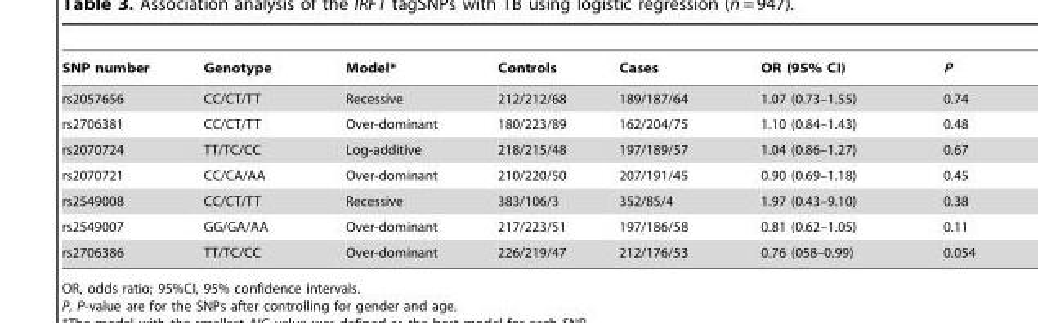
<table><thead><tr><td>SNP number</td><td>Genotype</td><td>Model*</td><td>Controls</td><td>Cases</td><td>OR (95% CI)</td><td>P</td></tr></thead><tbody><tr><td>rs2057656</td><td>CC/CT/TT</td><td>Recessive</td><td>212/212/68</td><td>189/187/64</td><td>1.07 (0.73–1.55)</td><td>0.74</td></tr><tr><td>rs2706381</td><td>CC/CT/TT</td><td>Over-dominant</td><td>180/223/89</td><td>162/204/75</td><td>1.10 (0.84–1.43)</td><td>0.48</td></tr><tr><td>rs2070724</td><td>TT/TC/CC</td><td>Log-additive</td><td>218/215/48</td><td>197/189/57</td><td>1.04 (0.86–1.27)</td><td>0.67</td></tr><tr><td>rs2070721</td><td>CC/CA/AA</td><td>Over-dominant</td><td>210/220/50</td><td>207/191/45</td><td>0.90 (0.69–1.18)</td><td>0.45</td></tr><tr><td>rs2549008</td><td>CC/CT/TT</td><td>Recessive</td><td>383/106/3</td><td>352/85/4</td><td>1.97 (0.43–9.10)</td><td>0.38</td></tr><tr><td>rs2549007</td><td>GG/GA/AA</td><td>Over-dominant</td><td>217/223/51</td><td>197/186/58</td><td>0.81 (0.62–1.05)</td><td>0.11</td></tr><tr><td>rs2706386</td><td>TT/TC/CC</td><td>Over-dominant</td><td>226/219/47</td><td>212/176/53</td><td>0.76 (058–0.99)</td><td>0.054</td></tr></tbody></table>